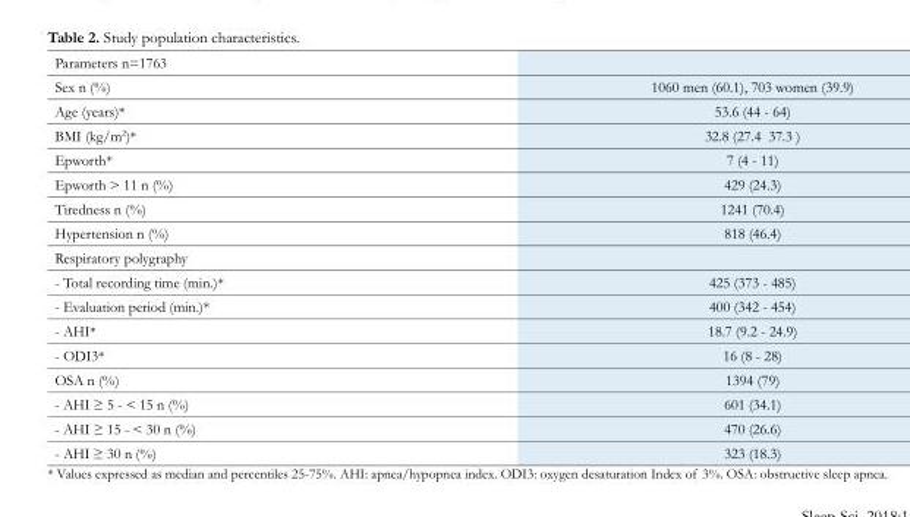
<table><thead><tr><td>Parameters n=1763</td><td></td></tr></thead><tbody><tr><td>Sex n (%)</td><td>1060 men (60.1), 703 women (39.9)</td></tr><tr><td>Age (years)*</td><td>53.6 (44 - 64)</td></tr><tr><td>BMI (kg/m<sup>2</sup>)*</td><td>32.8 (27.4 37.3 )</td></tr><tr><td>Epworth*</td><td>7 (4 - 11)</td></tr><tr><td>Epworth &gt; 11 n (%)</td><td>429 (24.3)</td></tr><tr><td>Tiredness n (%)</td><td>1241 (70.4)</td></tr><tr><td>Hypertension n (%)</td><td>818 (46.4)</td></tr><tr><td colspan="2">Respiratory polygraphy</td></tr><tr><td>- Total recording time (min.)*</td><td>425 (373 - 485)</td></tr><tr><td>- Evaluation period (min.)*</td><td>400 (342 - 454)</td></tr><tr><td>- AHI*</td><td>18.7 (9.2 - 24.9)</td></tr><tr><td>- ODI3*</td><td>16 (8 - 28)</td></tr><tr><td>OSA n (%)</td><td>1394 (79)</td></tr><tr><td>- AHI ≥ 5 - &lt; 15 n (%)</td><td>601 (34.1)</td></tr><tr><td>- AHI ≥ 15 - &lt; 30 n (%)</td><td>470 (26.6)</td></tr><tr><td>- AHI ≥ 30 n (%)</td><td>323 (18.3)</td></tr></tbody></table>